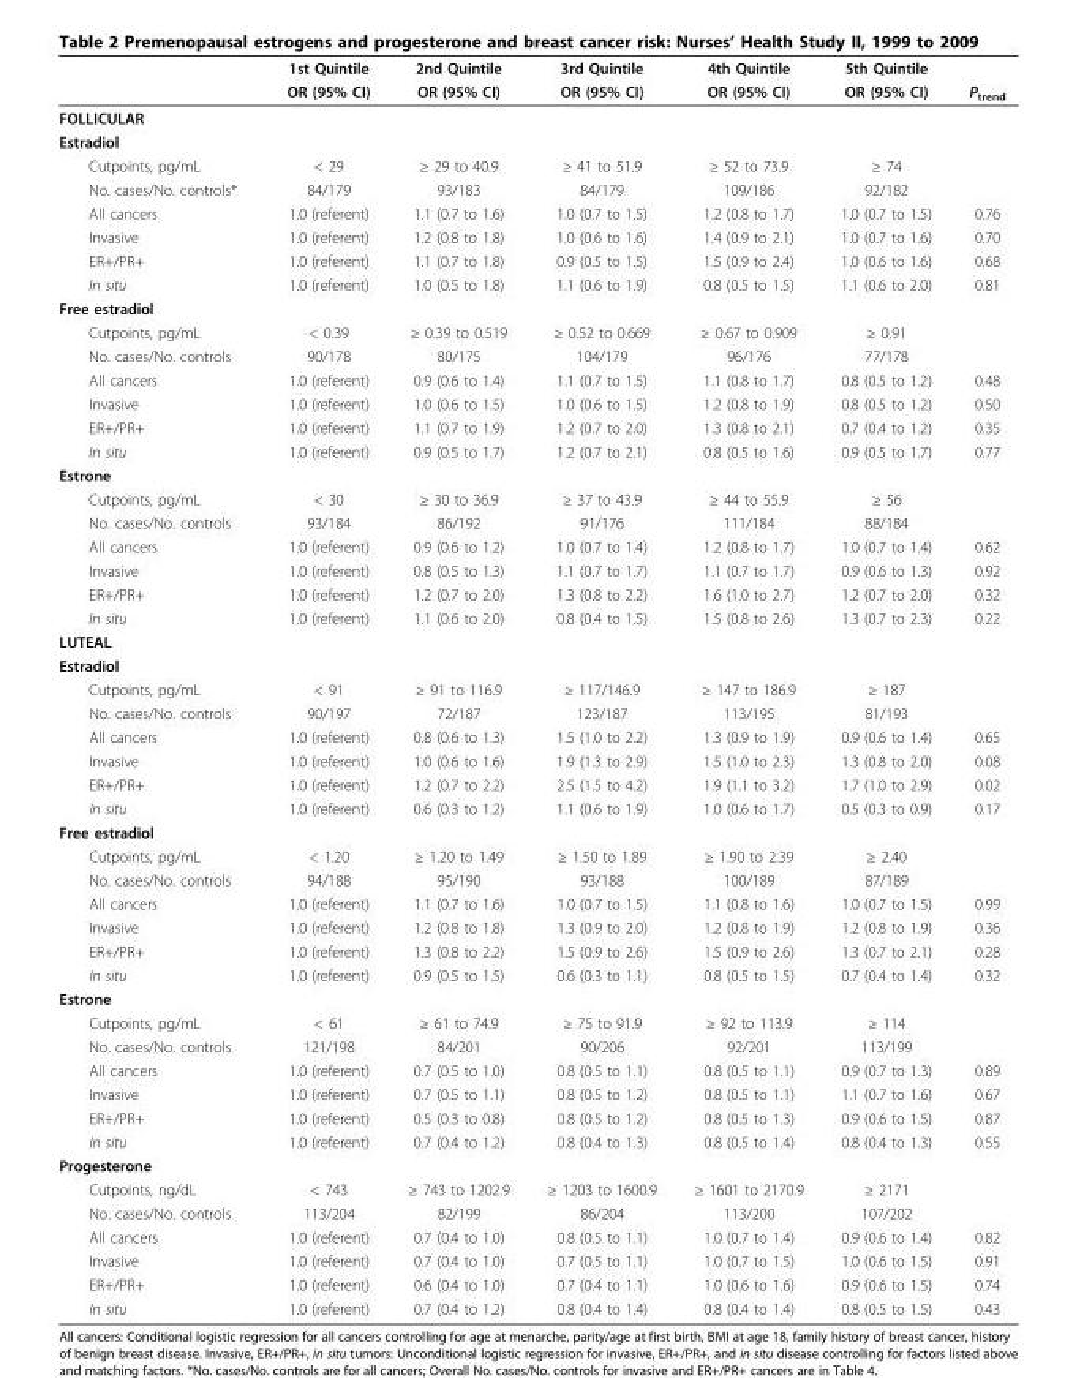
<table><thead><tr><td rowspan="2"></td><td rowspan="2">1st Quintile OR (95% CI)</td><td rowspan="2">2nd Quintile OR (95% CI)</td><td rowspan="2">3rd Quintile OR (95% CI)</td><td rowspan="2">4th Quintile OR (95% CI)</td><td rowspan="2">5th Quintile OR (95% CI)</td><td rowspan="2">P<sub>trend</sub></td></tr><tr></tr></thead><tbody><tr><td colspan="7">FOLLICULAR</td></tr><tr><td colspan="7">Estradiol</td></tr><tr><td>Cutpoints, pg/mL</td><td>&lt; 29</td><td>≥ 29 to 40.9</td><td>≥ 41 to 51.9</td><td>≥ 52 to 73.9</td><td>≥ 74</td><td></td></tr><tr><td>No. cases/No. controls*</td><td>84/179</td><td>93/183</td><td>84/179</td><td>109/186</td><td>92/182</td><td></td></tr><tr><td>All cancers</td><td>1.0 (referent)</td><td>1.1 (0.7 to 1.6)</td><td>1.0 (0.7 to 1.5)</td><td>1.2 (0.8 to 1.7)</td><td>1.0 (0.7 to 1.5)</td><td>0.76</td></tr><tr><td>Invasive</td><td>1.0 (referent)</td><td>1.2 (0.8 to 1.8)</td><td>1.0 (0.6 to 1.6)</td><td>1.4 (0.9 to 2.1)</td><td>1.0 (0.7 to 1.6)</td><td>0.70</td></tr><tr><td>ER+/PR+</td><td>1.0 (referent)</td><td>1.1 (0.7 to 1.8)</td><td>0.9 (0.5 to 1.5)</td><td>1.5 (0.9 to 2.4)</td><td>1.0 (0.6 to 1.6)</td><td>0.68</td></tr><tr><td>In situ</td><td>1.0 (referent)</td><td>1.0 (0.5 to 1.8)</td><td>1.1 (0.6 to 1.9)</td><td>0.8 (0.5 to 1.5)</td><td>1.1 (0.6 to 2.0)</td><td>0.81</td></tr><tr><td colspan="7">Free estradiol</td></tr><tr><td>Cutpoints, pg/mL</td><td>&lt; 0.39</td><td>≥ 0.39 to 0.519</td><td>≥ 0.52 to 0.669</td><td>≥ 0.67 to 0.909</td><td>≥ 0.91</td><td></td></tr><tr><td>No. cases/No. controls</td><td>90/178</td><td>80/175</td><td>104/179</td><td>96/176</td><td>77/178</td><td></td></tr><tr><td>All cancers</td><td>1.0 (referent)</td><td>0.9 (0.6 to 1.4)</td><td>1.1 (0.7 to 1.5)</td><td>1.1 (0.8 to 1.7)</td><td>0.8 (0.5 to 1.2)</td><td>0.48</td></tr><tr><td>Invasive</td><td>1.0 (referent)</td><td>1.0 (0.6 to 1.5)</td><td>1.0 (0.6 to 1.5)</td><td>1.2 (0.8 to 1.9)</td><td>0.8 (0.5 to 1.2)</td><td>0.50</td></tr><tr><td>ER+/PR+</td><td>1.0 (referent)</td><td>1.1 (0.7 to 1.9)</td><td>1.2 (0.7 to 2.0)</td><td>1.3 (0.8 to 2.1)</td><td>0.7 (0.4 to 1.2)</td><td>0.35</td></tr><tr><td>In situ</td><td>1.0 (referent)</td><td>0.9 (0.5 to 1.7)</td><td>1.2 (0.7 to 2.1)</td><td>0.8 (0.5 to 1.6)</td><td>0.9 (0.5 to 1.7)</td><td>0.77</td></tr><tr><td colspan="7">Estrone</td></tr><tr><td>Cutpoints, pg/mL</td><td>&lt; 30</td><td>≥ 30 to 36.9</td><td>≥ 37 to 43.9</td><td>≥ 44 to 55.9</td><td>≥ 56</td><td></td></tr><tr><td>No. cases/No. controls</td><td>93/184</td><td>86/192</td><td>91/176</td><td>111/184</td><td>88/184</td><td></td></tr><tr><td>All cancers</td><td>1.0 (referent)</td><td>0.9 (0.6 to 1.2)</td><td>1.0 (0.7 to 1.4)</td><td>1.2 (0.8 to 1.7)</td><td>1.0 (0.7 to 1.4)</td><td>0.62</td></tr><tr><td>Invasive</td><td>1.0 (referent)</td><td>0.8 (0.5 to 1.3)</td><td>1.1 (0.7 to 1.7)</td><td>1.1 (0.7 to 1.7)</td><td>0.9 (0.6 to 1.3)</td><td>0.92</td></tr><tr><td>ER+/PR+</td><td>1.0 (referent)</td><td>1.2 (0.7 to 2.0)</td><td>1.3 (0.8 to 2.2)</td><td>1.6 (1.0 to 2.7)</td><td>1.2 (0.7 to 2.0)</td><td>0.32</td></tr><tr><td>In situ</td><td>1.0 (referent)</td><td>1.1 (0.6 to 2.0)</td><td>0.8 (0.4 to 1.5)</td><td>1.5 (0.8 to 2.6)</td><td>1.3 (0.7 to 2.3)</td><td>0.22</td></tr><tr><td colspan="7">LUTEAL</td></tr><tr><td colspan="7">Estradiol</td></tr><tr><td>Cutpoints, pg/mL</td><td>&lt; 91</td><td>≥ 91 to 116.9</td><td>≥ 117/146.9</td><td>≥ 147 to 186.9</td><td>≥ 187</td><td></td></tr><tr><td>No. cases/No. controls</td><td>90/197</td><td>72/187</td><td>123/187</td><td>113/195</td><td>81/193</td><td></td></tr><tr><td>All cancers</td><td>1.0 (referent)</td><td>0.8 (0.6 to 1.3)</td><td>1.5 (1.0 to 2.2)</td><td>1.3 (0.9 to 1.9)</td><td>0.9 (0.6 to 1.4)</td><td>0.65</td></tr><tr><td>Invasive</td><td>1.0 (referent)</td><td>1.0 (0.6 to 1.6)</td><td>1.9 (1.3 to 2.9)</td><td>1.5 (1.0 to 2.3)</td><td>1.3 (0.8 to 2.0)</td><td>0.08</td></tr><tr><td>ER+/PR+</td><td>1.0 (referent)</td><td>1.2 (0.7 to 2.2)</td><td>2.5 (1.5 to 4.2)</td><td>1.9 (1.1 to 3.2)</td><td>1.7 (1.0 to 2.9)</td><td>0.02</td></tr><tr><td>In situ</td><td>1.0 (referent)</td><td>0.6 (0.3 to 1.2)</td><td>1.1 (0.6 to 1.9)</td><td>1.0 (0.6 to 1.7)</td><td>0.5 (0.3 to 0.9)</td><td>0.17</td></tr><tr><td colspan="7">Free estradiol</td></tr><tr><td>Cutpoints, pg/mL</td><td>&lt; 1.20</td><td>≥ 1.20 to 1.49</td><td>≥ 1.50 to 1.89</td><td>≥ 1.90 to 2.39</td><td>≥ 2.40</td><td></td></tr><tr><td>No. cases/No. controls</td><td>94/188</td><td>95/190</td><td>93/188</td><td>100/189</td><td>87/189</td><td></td></tr><tr><td>All cancers</td><td>1.0 (referent)</td><td>1.1 (0.7 to 1.6)</td><td>1.0 (0.7 to 1.5)</td><td>1.1 (0.8 to 1.6)</td><td>1.0 (0.7 to 1.5)</td><td>0.99</td></tr><tr><td>Invasive</td><td>1.0 (referent)</td><td>1.2 (0.8 to 1.8)</td><td>1.3 (0.9 to 2.0)</td><td>1.2 (0.8 to 1.9)</td><td>1.2 (0.8 to 1.9)</td><td>0.36</td></tr><tr><td>ER+/PR+</td><td>1.0 (referent)</td><td>1.3 (0.8 to 2.2)</td><td>1.5 (0.9 to 2.6)</td><td>1.5 (0.9 to 2.6)</td><td>1.3 (0.7 to 2.1)</td><td>0.28</td></tr><tr><td>In situ</td><td>1.0 (referent)</td><td>0.9 (0.5 to 1.5)</td><td>0.6 (0.3 to 1.1)</td><td>0.8 (0.5 to 1.5)</td><td>0.7 (0.4 to 1.4)</td><td>0.32</td></tr><tr><td colspan="7">Estrone</td></tr><tr><td>Cutpoints, pg/mL</td><td>&lt; 61</td><td>≥ 61 to 74.9</td><td>≥ 75 to 91.9</td><td>≥ 92 to 113.9</td><td>≥ 114</td><td></td></tr><tr><td>No. cases/No. controls</td><td>121/198</td><td>84/201</td><td>90/206</td><td>92/201</td><td>113/199</td><td></td></tr><tr><td>All cancers</td><td>1.0 (referent)</td><td>0.7 (0.5 to 1.0)</td><td>0.8 (0.5 to 1.1)</td><td>0.8 (0.5 to 1.1)</td><td>0.9 (0.7 to 1.3)</td><td>0.89</td></tr><tr><td>Invasive</td><td>1.0 (referent)</td><td>0.7 (0.5 to 1.1)</td><td>0.8 (0.5 to 1.2)</td><td>0.8 (0.5 to 1.1)</td><td>1.1 (0.7 to 1.6)</td><td>0.67</td></tr><tr><td>ER+/PR+</td><td>1.0 (referent)</td><td>0.5 (0.3 to 0.8)</td><td>0.8 (0.5 to 1.2)</td><td>0.8 (0.5 to 1.3)</td><td>0.9 (0.6 to 1.5)</td><td>0.87</td></tr><tr><td>In situ</td><td>1.0 (referent)</td><td>0.7 (0.4 to 1.2)</td><td>0.8 (0.4 to 1.3)</td><td>0.8 (0.5 to 1.4)</td><td>0.8 (0.4 to 1.3)</td><td>0.55</td></tr><tr><td colspan="7">Progesterone</td></tr><tr><td>Cutpoints, ng/dL</td><td>&lt; 743</td><td>≥ 743 to 1202.9</td><td>≥ 1203 to 1600.9</td><td>≥ 1601 to 2170.9</td><td>≥ 2171</td><td></td></tr><tr><td>No. cases/No. controls</td><td>113/204</td><td>82/199</td><td>86/204</td><td>113/200</td><td>107/202</td><td></td></tr><tr><td>All cancers</td><td>1.0 (referent)</td><td>0.7 (0.4 to 1.0)</td><td>0.8 (0.5 to 1.1)</td><td>1.0 (0.7 to 1.4)</td><td>0.9 (0.6 to 1.4)</td><td>0.82</td></tr><tr><td>Invasive</td><td>1.0 (referent)</td><td>0.7 (0.4 to 1.0)</td><td>0.7 (0.5 to 1.1)</td><td>1.0 (0.7 to 1.5)</td><td>1.0 (0.6 to 1.5)</td><td>0.91</td></tr><tr><td>ER+/PR+</td><td>1.0 (referent)</td><td>0.6 (0.4 to 1.0)</td><td>0.7 (0.4 to 1.1)</td><td>1.0 (0.6 to 1.6)</td><td>0.9 (0.6 to 1.5)</td><td>0.74</td></tr><tr><td>In situ</td><td>1.0 (referent)</td><td>0.7 (0.4 to 1.2)</td><td>0.8 (0.4 to 1.4)</td><td>0.8 (0.4 to 1.4)</td><td>0.8 (0.5 to 1.5)</td><td>0.43</td></tr></tbody></table>